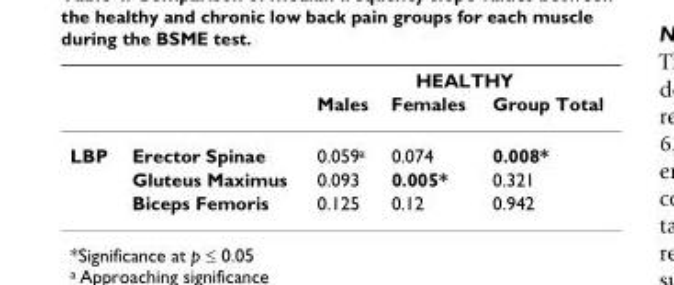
<table><thead><tr><td rowspan="2"></td><td rowspan="2"></td><td colspan="3">HEALTHY</td></tr><tr><td>Males</td><td>Females</td><td>Group Total</td></tr></thead><tbody><tr><td rowspan="3">LBP</td><td>Erector Spinae</td><td>0.059<sup>a</sup></td><td>0.074</td><td>0.008*</td></tr><tr><td>Gluteus Maximus</td><td>0.093</td><td>0.005*</td><td>0.321</td></tr><tr><td>Biceps Femoris</td><td>0.125</td><td>0.12</td><td>0.942</td></tr></tbody></table>